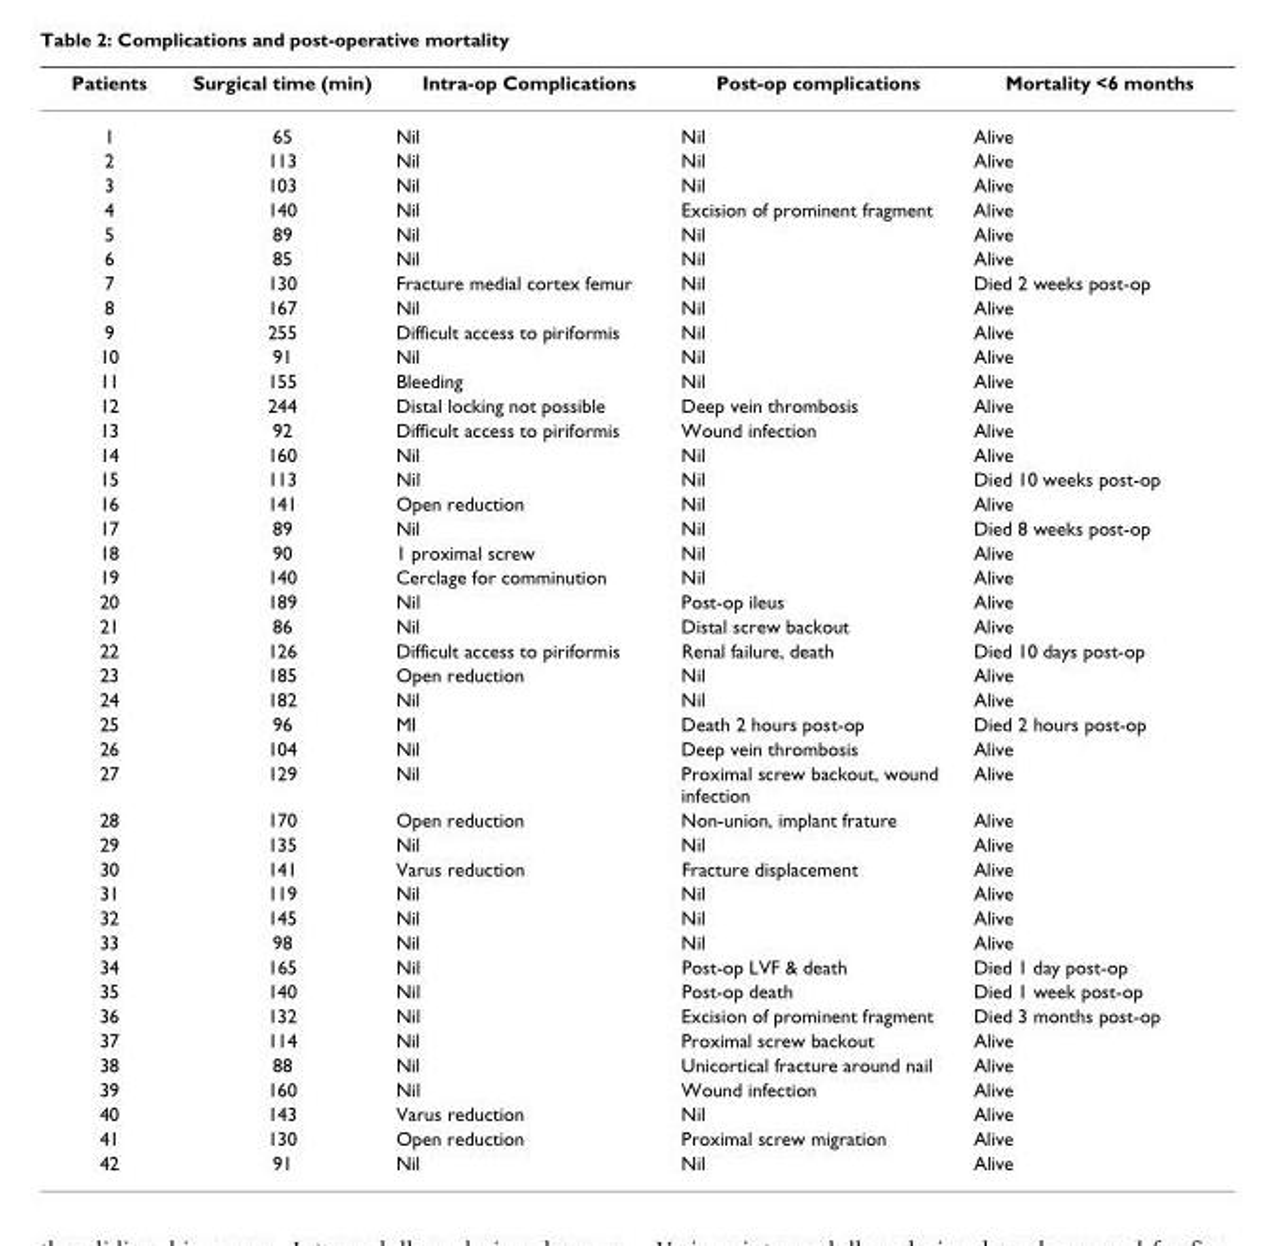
<table><thead><tr><td>Patients</td><td>Surgical time (min)</td><td>Intra-op Complications</td><td>Post-op complications</td><td>Mortality &lt;6 months</td></tr></thead><tbody><tr><td>1</td><td>65</td><td>Nil</td><td>Nil</td><td>Alive</td></tr><tr><td>2</td><td>113</td><td>Nil</td><td>Nil</td><td>Alive</td></tr><tr><td>3</td><td>103</td><td>Nil</td><td>Nil</td><td>Alive</td></tr><tr><td>4</td><td>140</td><td>Nil</td><td>Excision of prominent fragment</td><td>Alive</td></tr><tr><td>5</td><td>89</td><td>Nil</td><td>Nil</td><td>Alive</td></tr><tr><td>6</td><td>85</td><td>Nil</td><td>Nil</td><td>Alive</td></tr><tr><td>7</td><td>130</td><td>Fracture medial cortex femur</td><td>Nil</td><td>Died 2 weeks post-op</td></tr><tr><td>8</td><td>167</td><td>Nil</td><td>Nil</td><td>Alive</td></tr><tr><td>9</td><td>255</td><td>Difficult access to piriformis</td><td>Nil</td><td>Alive</td></tr><tr><td>10</td><td>91</td><td>Nil</td><td>Nil</td><td>Alive</td></tr><tr><td>11</td><td>155</td><td>Bleeding</td><td>Nil</td><td>Alive</td></tr><tr><td>12</td><td>244</td><td>Distal locking not possible</td><td>Deep vein thrombosis</td><td>Alive</td></tr><tr><td>13</td><td>92</td><td>Difficult access to piriformis</td><td>Wound infection</td><td>Alive</td></tr><tr><td>14</td><td>160</td><td>Nil</td><td>Nil</td><td>Alive</td></tr><tr><td>15</td><td>113</td><td>Nil</td><td>Nil</td><td>Died 10 weeks post-op</td></tr><tr><td>16</td><td>141</td><td>Open reduction</td><td>Nil</td><td>Alive</td></tr><tr><td>17</td><td>89</td><td>Nil</td><td>Nil</td><td>Died 8 weeks post-op</td></tr><tr><td>18</td><td>90</td><td>1 proximal screw</td><td>Nil</td><td>Alive</td></tr><tr><td>19</td><td>140</td><td>Cerclage for comminution</td><td>Nil</td><td>Alive</td></tr><tr><td>20</td><td>189</td><td>Nil</td><td>Post-op ileus</td><td>Alive</td></tr><tr><td>21</td><td>86</td><td>Nil</td><td>Distal screw backout</td><td>Alive</td></tr><tr><td>22</td><td>126</td><td>Difficult access to piriformis</td><td>Renal failure, death</td><td>Died 10 days post-op</td></tr><tr><td>23</td><td>185</td><td>Open reduction</td><td>Nil</td><td>Alive</td></tr><tr><td>24</td><td>182</td><td>Nil</td><td>Nil</td><td>Alive</td></tr><tr><td>25</td><td>96</td><td>MI</td><td>Death 2 hours post-op</td><td>Died 2 hours post-op</td></tr><tr><td>26</td><td>104</td><td>Nil</td><td>Deep vein thrombosis</td><td>Alive</td></tr><tr><td>27</td><td>129</td><td>Nil</td><td>Proximal screw backout, wound infection</td><td>Alive</td></tr><tr><td>28</td><td>170</td><td>Open reduction</td><td>Non-union, implant frature</td><td>Alive</td></tr><tr><td>29</td><td>135</td><td>Nil</td><td>Nil</td><td>Alive</td></tr><tr><td>30</td><td>141</td><td>Varus reduction</td><td>Fracture displacement</td><td>Alive</td></tr><tr><td>31</td><td>119</td><td>Nil</td><td>Nil</td><td>Alive</td></tr><tr><td>32</td><td>145</td><td>Nil</td><td>Nil</td><td>Alive</td></tr><tr><td>33</td><td>98</td><td>Nil</td><td>Nil</td><td>Alive</td></tr><tr><td>34</td><td>165</td><td>Nil</td><td>Post-op LVF &amp; death</td><td>Died 1 day post-op</td></tr><tr><td>35</td><td>140</td><td>Nil</td><td>Post-op death</td><td>Died 1 week post-op</td></tr><tr><td>36</td><td>132</td><td>Nil</td><td>Excision of prominent fragment</td><td>Died 3 months post-op</td></tr><tr><td>37</td><td>114</td><td>Nil</td><td>Proximal screw backout</td><td>Alive</td></tr><tr><td>38</td><td>88</td><td>Nil</td><td>Unicortical fracture around nail</td><td>Alive</td></tr><tr><td>39</td><td>160</td><td>Nil</td><td>Wound infection</td><td>Alive</td></tr><tr><td>40</td><td>143</td><td>Varus reduction</td><td>Nil</td><td>Alive</td></tr><tr><td>41</td><td>130</td><td>Open reduction</td><td>Proximal screw migration</td><td>Alive</td></tr><tr><td>42</td><td>91</td><td>Nil</td><td>Nil</td><td>Alive</td></tr></tbody></table>